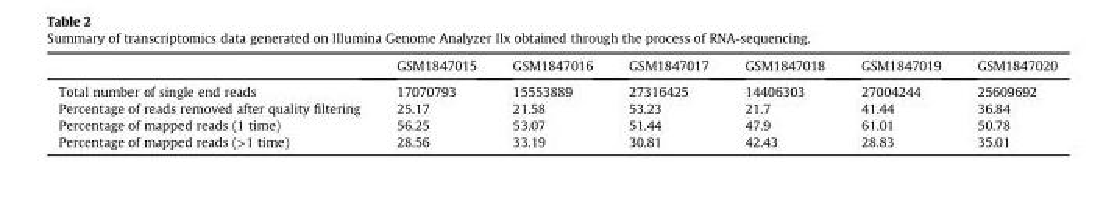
<table><thead><tr><td></td><td>GSM1847015</td><td>GSM1847016</td><td>GSM1847017</td><td>GSM1847018</td><td>GSM1847019</td><td>GSM1847020</td></tr></thead><tbody><tr><td>Total number of single end reads</td><td>17070793</td><td>15553889</td><td>27316425</td><td>14406303</td><td>27004244</td><td>25609692</td></tr><tr><td>Percentage of reads removed after quality filtering</td><td>25.17</td><td>21.58</td><td>53.23</td><td>21.7</td><td>41.44</td><td>36.84</td></tr><tr><td>Percentage of mapped reads (1 time)</td><td>56.25</td><td>53.07</td><td>51.44</td><td>47.9</td><td>61.01</td><td>50.78</td></tr><tr><td>Percentage of mapped reads (&gt;1 time)</td><td>28.56</td><td>33.19</td><td>30.81</td><td>42.43</td><td>28.83</td><td>35.01</td></tr></tbody></table>